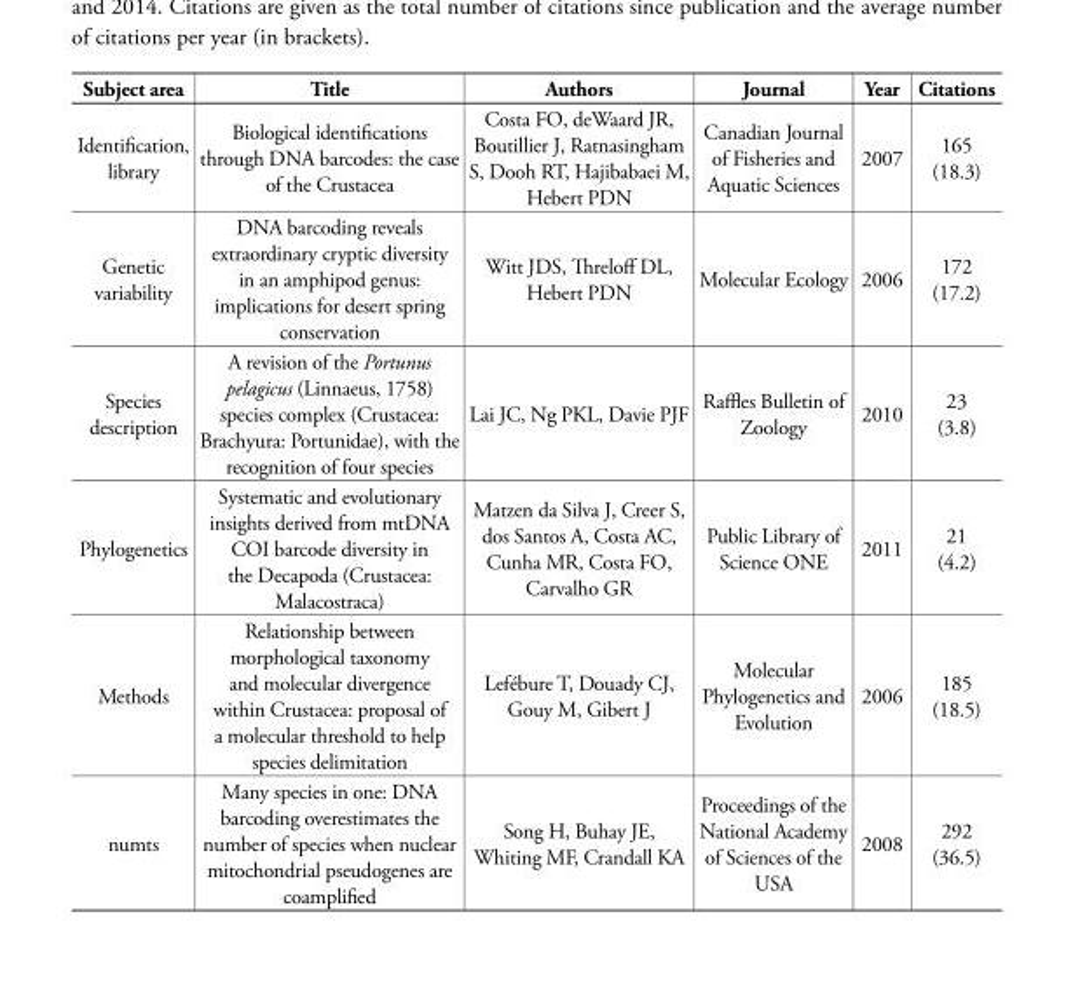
<table><thead><tr><td>Subject area</td><td>Title</td><td>Authors</td><td>Journal</td><td>Year</td><td>Citations</td></tr></thead><tbody><tr><td>Identification, library</td><td>Biological identifications through DNA barcodes: the case of the Crustacea</td><td>Costa FO, deWaard JR, Boutillier J, Ratnasingham S, Dooh RT, Hajibabaei M, Hebert PDN</td><td>Canadian Journal of Fisheries and Aquatic Sciences</td><td>2007</td><td>165 (18.3)</td></tr><tr><td>Genetic variability</td><td>DNA barcoding reveals extraordinary cryptic diversity in an amphipod genus: implications for desert spring conservation</td><td>Witt JDS, Threloff DL, Hebert PDN</td><td>Molecular Ecology</td><td>2006</td><td>172 (17.2)</td></tr><tr><td>Species description</td><td>A revision of the Portunus pelagicus (Linnaeus, 1758) species complex (Crustacea: Brachyura: Portunidae), with the recognition of four species</td><td>Lai JC, Ng PKL, Davie PJF</td><td>Raffles Bulletin of Zoology</td><td>2010</td><td>23 (3.8)</td></tr><tr><td>Phylogenetics</td><td>Systematic and evolutionary insights derived from mtDNA COI barcode diversity in the Decapoda (Crustacea: Malacostraca)</td><td>Matzen da Silva J, Creer S, dos Santos A, Costa AC, Cunha MR, Costa FO, Carvalho GR</td><td>Public Library of Science ONE</td><td>2011</td><td>21 (4.2)</td></tr><tr><td>Methods</td><td>Relationship between morphological taxonomy and molecular divergence within Crustacea: proposal of a molecular threshold to help species delimitation</td><td>Lefébure T, Douady CJ, Gouy M, Gibert J</td><td>Molecular Phylogenetics and Evolution</td><td>2006</td><td>185 (18.5)</td></tr><tr><td>numts</td><td>Many species in one: DNA barcoding overestimates the number of species when nuclear mitochondrial pseudogenes are coamplified</td><td>Song H, Buhay JE, Whiting MF, Crandall KA</td><td>Proceedings of the National Academy of Sciences of the USA</td><td>2008</td><td>292 (36.5)</td></tr></tbody></table>